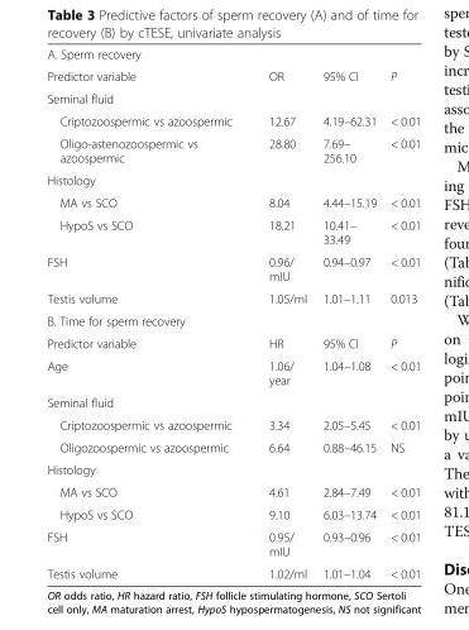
<table><tbody><tr><td colspan="4">A. Sperm recovery</td></tr><tr><td>Predictor variable</td><td>OR</td><td>95% Cl</td><td>P</td></tr><tr><td colspan="4">Seminal fluid</td></tr><tr><td>Criptozoospermic vs azoospermic</td><td>12.67</td><td>4.19–62.31</td><td>&lt; 0.01</td></tr><tr><td>Oligo-astenozoospermic vs azoospermic</td><td>28.80</td><td>7.69– 256.10</td><td>&lt; 0.01</td></tr><tr><td colspan="4">Histology</td></tr><tr><td>MA vs SCO</td><td>8.04</td><td>4.44–15.19</td><td>&lt; 0.01</td></tr><tr><td>HypoS vs SCO</td><td>18.21</td><td>10.41– 33.49</td><td>&lt; 0.01</td></tr><tr><td>FSH</td><td>0.96/ mIU</td><td>0.94–0.97</td><td>&lt; 0.01</td></tr><tr><td>Testis volume</td><td>1.05/ml</td><td>1.01–1.11</td><td>0.013</td></tr><tr><td colspan="4">B. Time for sperm recovery</td></tr><tr><td>Predictor variable</td><td>HR</td><td>95% Cl</td><td>P</td></tr><tr><td>Age</td><td>1.06/ year</td><td>1.04–1.08</td><td>&lt; 0.01</td></tr><tr><td colspan="4">Seminal fluid</td></tr><tr><td>Criptozoospermic vs azoospermic</td><td>3.34</td><td>2.05–5.45</td><td>&lt; 0.01</td></tr><tr><td>Oligozoospermic vs azoospermic</td><td>6.64</td><td>0.88–46.15</td><td>NS</td></tr><tr><td colspan="4">Histology</td></tr><tr><td>MA vs SCO</td><td>4.61</td><td>2.84–7.49</td><td>&lt; 0.01</td></tr><tr><td>HypoS vs SCO</td><td>9.10</td><td>6.03–13.74</td><td>&lt; 0.01</td></tr><tr><td>FSH</td><td>0.95/ mIU</td><td>0.93–0.96</td><td>&lt; 0.01</td></tr><tr><td>Testis volume</td><td>1.02/ml</td><td>1.01–1.04</td><td>&lt; 0.01</td></tr></tbody></table>